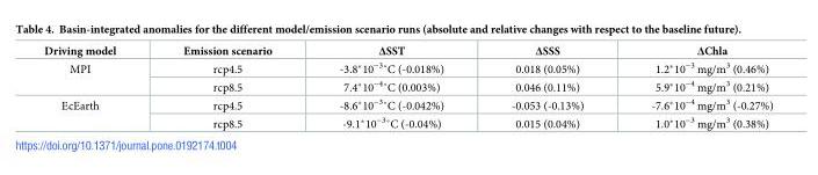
<table><thead><tr><td>Driving model</td><td>Emission scenario</td><td>ΔSST</td><td>ΔSSS</td><td>ΔChla</td></tr></thead><tbody><tr><td rowspan="2">MPI</td><td>rcp4.5</td><td>-3.8*10−3˚C (-0.018%)</td><td>0.018 (0.05%)</td><td>1.2*10<sup>−3</sup> mg/m<sup>3</sup> (0.46%)</td></tr><tr><td>rcp8.5</td><td>7.4*10−4˚C (0.003%)</td><td>0.046 (0.11%)</td><td>5.9*10<sup>−4</sup> mg/m<sup>3</sup> (0.21%)</td></tr><tr><td rowspan="2">EcEarth</td><td>rcp4.5</td><td>-8.6*10−3˚C (-0.042%)</td><td>-0.053 (-0.13%)</td><td>-7.6*10<sup>−4</sup> mg/m<sup>3</sup> (-0.27%)</td></tr><tr><td>rcp8.5</td><td>-9.1*10−3˚C (-0.04%)</td><td>0.015 (0.04%)</td><td>1.0*10<sup>−3</sup> mg/m<sup>3</sup> (0.38%)</td></tr></tbody></table>